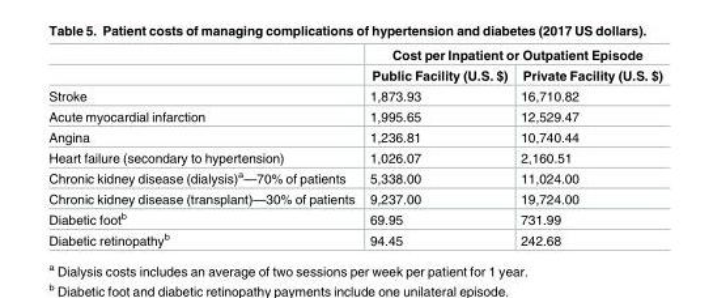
<table><thead><tr><td rowspan="2"></td><td colspan="2">Cost per Inpatient or Outpatient Episode</td></tr><tr><td>Public Facility (U.S. $)</td><td>Private Facility (U.S. $)</td></tr></thead><tbody><tr><td>Stroke</td><td>1,873.93</td><td>16,710.82</td></tr><tr><td>Acute myocardial infarction</td><td>1,995.65</td><td>12,529.47</td></tr><tr><td>Angina</td><td>1,236.81</td><td>10,740.44</td></tr><tr><td>Heart failure (secondary to hypertension)</td><td>1,026.07</td><td>2,160.51</td></tr><tr><td>Chronic kidney disease (dialysis)<sup>a</sup>—70% of patients</td><td>5,338.00</td><td>11,024.00</td></tr><tr><td>Chronic kidney disease (transplant)—30% of patients</td><td>9,237.00</td><td>19,724.00</td></tr><tr><td>Diabetic foot<sup>b</sup></td><td>69.95</td><td>731.99</td></tr><tr><td>Diabetic retinopathy<sup>b</sup></td><td>94.45</td><td>242.68</td></tr></tbody></table>